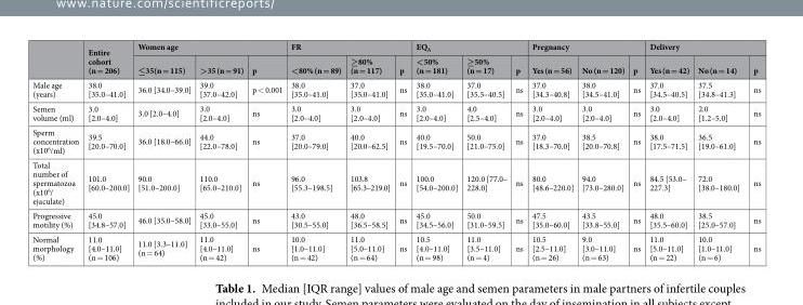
<table><thead><tr><td rowspan="2"></td><td rowspan="2">Entire cohort (n = 206)</td><td colspan="3">Women age</td><td colspan="3">FR</td><td colspan="3">EQ<sub>A</sub></td><td colspan="3">Pregnancy</td><td colspan="3">Delivery</td></tr><tr><td>≤35(n = 115)</td><td>&gt;35 (n = 91)</td><td>p</td><td>&lt;80% (n = 89)</td><td>≥80% (n = 117)</td><td>p</td><td>&lt;50% (n = 181)</td><td>≥50% (n = 17)</td><td>p</td><td>Yes (n = 56)</td><td>No (n = 120)</td><td>p</td><td>Yes (n = 42)</td><td>No (n = 14)</td><td>p</td></tr></thead><tbody><tr><td>Male age (years)</td><td>38.0 [35.0–41.0]</td><td>36.0 [34.0–39.0]</td><td>39.0 [37.0–42.0]</td><td>p &lt; 0.001</td><td>38.0 [35.0–41.0]</td><td>37.0 [35.0–41.0]</td><td>ns</td><td>38.0 [35.0–41.0]</td><td>37.0 [35.5–40.5]</td><td>ns</td><td>37.0 [34.3–40.8]</td><td>38.0 [34.5–41.0]</td><td>ns</td><td>37.0 [34.5–40.5]</td><td>37.5 [34.8–41.3]</td><td>ns</td></tr><tr><td>Semen volume (ml)</td><td>3.0 [2.0–4.0]</td><td>3.0 [2.0–4.0]</td><td>3.0 [2.0–4.0]</td><td>ns</td><td>3.0 [2.0–4.0]</td><td>3.0 [2.0–4.0]</td><td>ns</td><td>3.0 [2.0–4.0]</td><td>4.0 [2.5–4.0]</td><td>ns</td><td>3.0 [2.0–4.0]</td><td>3.0 [2.0–4.0]</td><td>ns</td><td>3.0 [2.0–4.0]</td><td>2.0 [1.2–5.0]</td><td>ns</td></tr><tr><td>Sperm concentration (x10<sup>6</sup>/ml)</td><td>39.5 [20.0–70.0]</td><td>36.0 [18.0–66.0]</td><td>44.0 [22.0–78.0]</td><td>ns</td><td>37.0 [20.0–79.0]</td><td>40.0 [20.0–62.5]</td><td>ns</td><td>40.0 [19.5–70.0]</td><td>50.0 [21.0–75.0]</td><td>ns</td><td>37.0 [18.3–70.0]</td><td>38.5 [20.0–70.8]</td><td>ns</td><td>38.0 [17.5–71.5]</td><td>36.5 [19.0–61.0]</td><td>ns</td></tr><tr><td>Total number of spermatozoa (x10<sup>6</sup>/ ejaculate)</td><td>101.0 [60.0–200.0]</td><td>90.0 [51.0–200.0]</td><td>110.0 [65.0–210.0]</td><td>ns</td><td>96.0 [55.3–198.5]</td><td>103.8 [65.3–219.0]</td><td>ns</td><td>100.0 [54.0–200.0]</td><td>120.0 [77.0– 228.0]</td><td>ns</td><td>80.0 [48.6–220.0]</td><td>94.0 [73.0–280.0]</td><td>ns</td><td>84.5 [53.0– 227.3]</td><td>72.0 [38.0–180.0]</td><td>ns</td></tr><tr><td>Progressive motility (%)</td><td>45.0 [34.8–57.0]</td><td>46.0 [35.0–58.0]</td><td>45.0 [33.0–55.0]</td><td>ns</td><td>43.0 [30.5–55.0]</td><td>48.0 [36.5–58.5]</td><td>ns</td><td>45.0 [34.5–56.0]</td><td>50.0 [31.0–59.5]</td><td>ns</td><td>47.5 [35.0–60.0]</td><td>43.5 [33.8–55.0]</td><td>ns</td><td>48.0 [35.5–60.0]</td><td>38.5 [25.0–57.0]</td><td>ns</td></tr><tr><td>Normal morphology (%)</td><td>11.0 [4.0–11.0] (n = 106)</td><td>11.0 [3.3–11.0] (n = 64)</td><td>11.0 [4.0–11.0] (n = 42)</td><td>ns</td><td>10.0 [1.0–11.0] (n = 42)</td><td>11.0 [5.0–11.0] (n = 64)</td><td>ns</td><td>10.5 [4.0–11.0] (n = 98)</td><td>11.0 [3.5–11.0] (n = 4)</td><td>ns</td><td>10.5 [2.5–11.0] (n = 26)</td><td>9.0 [3.0–11.0] (n = 63)</td><td>ns</td><td>11.0 [5.0–11.0] (n = 22)</td><td>10.0 [1.0–11.0] (n = 6)</td><td>ns</td></tr></tbody></table>